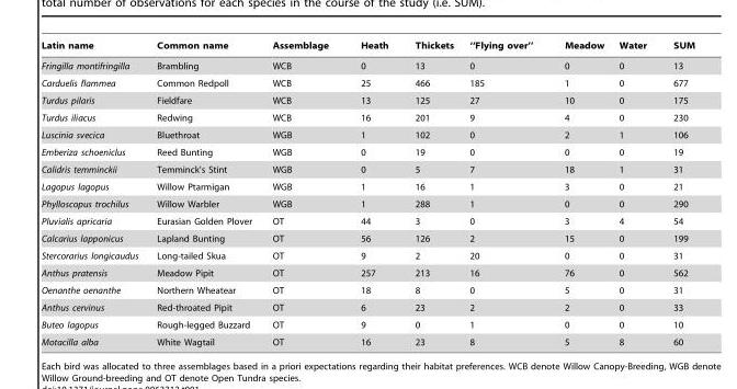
<table><thead><tr><td>Latin name</td><td>Common name</td><td>Assemblage</td><td>Heath</td><td>Thickets</td><td>‘‘Flying over’’</td><td>Meadow</td><td>Water</td><td>SUM</td></tr></thead><tbody><tr><td>Fringilla montifringilla</td><td>Brambling</td><td>WCB</td><td>0</td><td>13</td><td>0</td><td>0</td><td>0</td><td>13</td></tr><tr><td>Carduelis flammea</td><td>Common Redpoll</td><td>WCB</td><td>25</td><td>466</td><td>185</td><td>1</td><td>0</td><td>677</td></tr><tr><td>Turdus pilaris</td><td>Fieldfare</td><td>WCB</td><td>13</td><td>125</td><td>27</td><td>10</td><td>0</td><td>175</td></tr><tr><td>Turdus iliacus</td><td>Redwing</td><td>WCB</td><td>16</td><td>201</td><td>9</td><td>4</td><td>0</td><td>230</td></tr><tr><td>Luscinia svecica</td><td>Bluethroat</td><td>WGB</td><td>1</td><td>102</td><td>0</td><td>2</td><td>1</td><td>106</td></tr><tr><td>Emberiza schoeniclus</td><td>Reed Bunting</td><td>WGB</td><td>0</td><td>19</td><td>0</td><td>0</td><td>0</td><td>19</td></tr><tr><td>Calidris temminckii</td><td>Temminck’s Stint</td><td>WGB</td><td>0</td><td>5</td><td>7</td><td>18</td><td>1</td><td>31</td></tr><tr><td>Lagopus lagopus</td><td>Willow Ptarmigan</td><td>WGB</td><td>1</td><td>16</td><td>1</td><td>3</td><td>0</td><td>21</td></tr><tr><td>Phylloscopus trochilus</td><td>Willow Warbler</td><td>WGB</td><td>1</td><td>288</td><td>1</td><td>0</td><td>0</td><td>290</td></tr><tr><td>Pluvialis apricaria</td><td>Eurasian Golden Plover</td><td>OT</td><td>44</td><td>3</td><td>0</td><td>3</td><td>4</td><td>54</td></tr><tr><td>Calcarius lapponicus</td><td>Lapland Bunting</td><td>OT</td><td>56</td><td>126</td><td>2</td><td>15</td><td>0</td><td>199</td></tr><tr><td>Stercorarius longicaudus</td><td>Long-tailed Skua</td><td>OT</td><td>9</td><td>2</td><td>20</td><td>0</td><td>0</td><td>31</td></tr><tr><td>Anthus pratensis</td><td>Meadow Pipit</td><td>OT</td><td>257</td><td>213</td><td>16</td><td>76</td><td>0</td><td>562</td></tr><tr><td>Oenanthe oenanthe</td><td>Northern Wheatear</td><td>OT</td><td>18</td><td>8</td><td>0</td><td>5</td><td>0</td><td>31</td></tr><tr><td>Anthus cervinus</td><td>Red-throated Pipit</td><td>OT</td><td>6</td><td>23</td><td>2</td><td>2</td><td>0</td><td>33</td></tr><tr><td>Buteo lagopus</td><td>Rough-legged Buzzard</td><td>OT</td><td>9</td><td>0</td><td>1</td><td>0</td><td>0</td><td>10</td></tr><tr><td>Motacilla alba</td><td>White Wagtail</td><td>OT</td><td>16</td><td>23</td><td>8</td><td>5</td><td>8</td><td>60</td></tr></tbody></table>